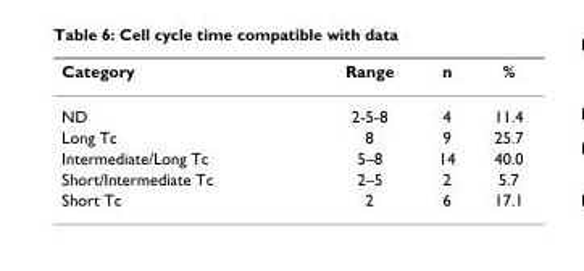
<table><thead><tr><td>Category</td><td>Range</td><td>n</td><td>%</td></tr></thead><tbody><tr><td>ND</td><td>2-5-8</td><td>4</td><td>11.4</td></tr><tr><td>Long Tc</td><td>8</td><td>9</td><td>25.7</td></tr><tr><td>Intermediate/Long Tc</td><td>5–8</td><td>14</td><td>40.0</td></tr><tr><td>Short/Intermediate Tc</td><td>2–5</td><td>2</td><td>5.7</td></tr><tr><td>Short Tc</td><td>2</td><td>6</td><td>17.1</td></tr></tbody></table>